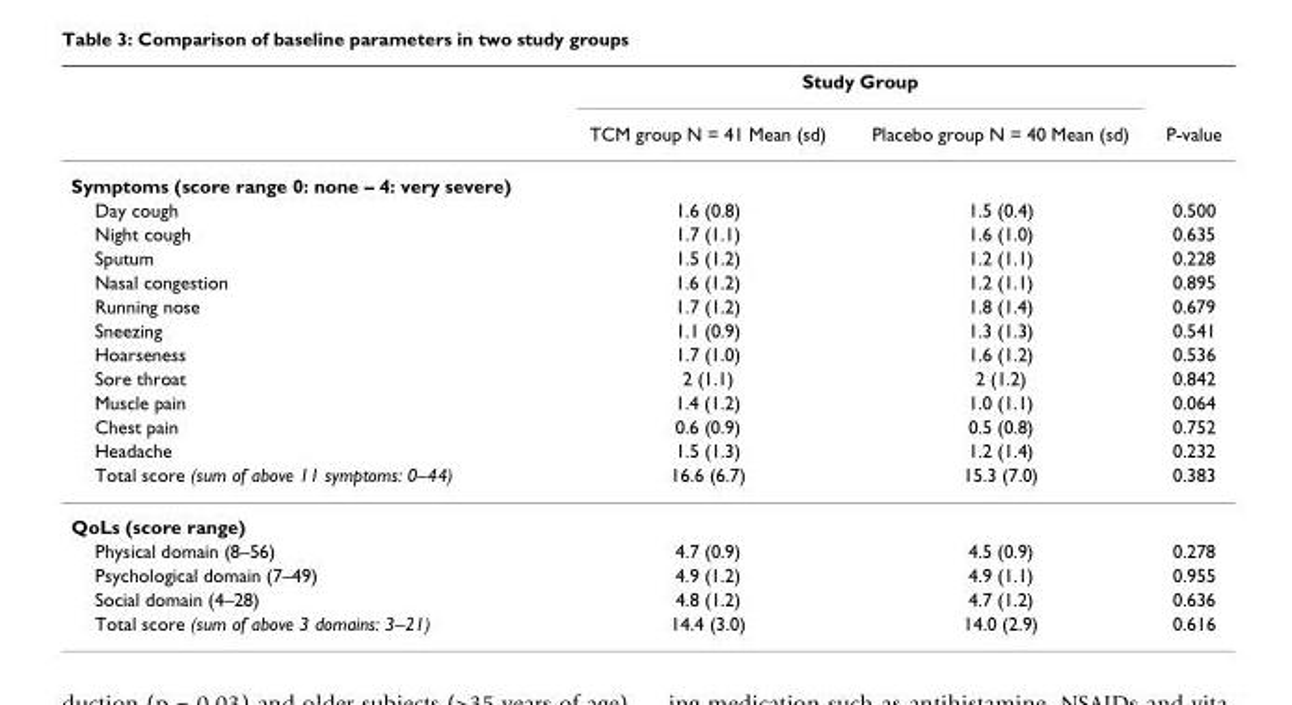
<table><thead><tr><td rowspan="2"></td><td colspan="2">Study Group</td><td rowspan="2">P-value</td></tr><tr><td>TCM group N = 41 Mean (sd)</td><td>Placebo group N = 40 Mean (sd)</td></tr></thead><tbody><tr><td colspan="4">Symptoms (score range 0: none – 4: very severe)</td></tr><tr><td>Day cough</td><td>1.6 (0.8)</td><td>1.5 (0.4)</td><td>0.500</td></tr><tr><td>Night cough</td><td>1.7 (1.1)</td><td>1.6 (1.0)</td><td>0.635</td></tr><tr><td>Sputum</td><td>1.5 (1.2)</td><td>1.2 (1.1)</td><td>0.228</td></tr><tr><td>Nasal congestion</td><td>1.6 (1.2)</td><td>1.2 (1.1)</td><td>0.895</td></tr><tr><td>Running nose</td><td>1.7 (1.2)</td><td>1.8 (1.4)</td><td>0.679</td></tr><tr><td>Sneezing</td><td>1.1 (0.9)</td><td>1.3 (1.3)</td><td>0.541</td></tr><tr><td>Hoarseness</td><td>1.7 (1.0)</td><td>1.6 (1.2)</td><td>0.536</td></tr><tr><td>Sore throat</td><td>2 (1.1)</td><td>2 (1.2)</td><td>0.842</td></tr><tr><td>Muscle pain</td><td>1.4 (1.2)</td><td>1.0 (1.1)</td><td>0.064</td></tr><tr><td>Chest pain</td><td>0.6 (0.9)</td><td>0.5 (0.8)</td><td>0.752</td></tr><tr><td>Headache</td><td>1.5 (1.3)</td><td>1.2 (1.4)</td><td>0.232</td></tr><tr><td>Total score (sum of above 11 symptoms: 0–44)</td><td>16.6 (6.7)</td><td>15.3 (7.0)</td><td>0.383</td></tr><tr><td colspan="4">QoLs (score range)</td></tr><tr><td>Physical domain (8–56)</td><td>4.7 (0.9)</td><td>4.5 (0.9)</td><td>0.278</td></tr><tr><td>Psychological domain (7–49)</td><td>4.9 (1.2)</td><td>4.9 (1.1)</td><td>0.955</td></tr><tr><td>Social domain (4–28)</td><td>4.8 (1.2)</td><td>4.7 (1.2)</td><td>0.636</td></tr><tr><td>Total score (sum of above 3 domains: 3–21)</td><td>14.4 (3.0)</td><td>14.0 (2.9)</td><td>0.616</td></tr></tbody></table>